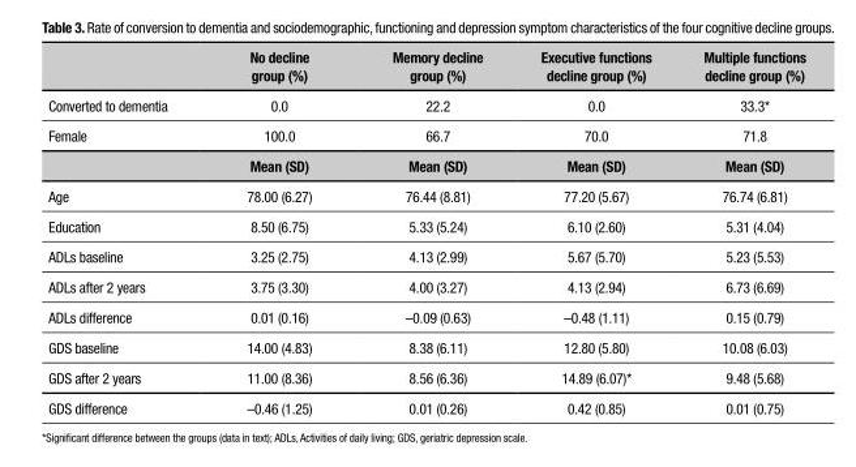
<table><thead><tr><td></td><td>No decline group (%)</td><td>Memory decline group (%)</td><td>Executive functions decline group (%)</td><td>Multiple functions decline group (%)</td></tr></thead><tbody><tr><td>Converted to dementia</td><td>0.0</td><td>22.2</td><td>0.0</td><td>33.3*</td></tr><tr><td rowspan="2">Female</td><td>100.0</td><td>66.7</td><td>70.0</td><td>71.8</td></tr><tr><td>Mean (SD)</td><td>Mean (SD)</td><td>Mean (SD)</td><td>Mean (SD)</td></tr><tr><td>Age</td><td>78.00 (6.27)</td><td>76.44 (8.81)</td><td>77.20 (5.67)</td><td>76.74 (6.81)</td></tr><tr><td>Education</td><td>8.50 (6.75)</td><td>5.33 (5.24)</td><td>6.10 (2.60)</td><td>5.31 (4.04)</td></tr><tr><td>ADLs baseline</td><td>3.25 (2.75)</td><td>4.13 (2.99)</td><td>5.67 (5.70)</td><td>5.23 (5.53)</td></tr><tr><td>ADLs after 2 years</td><td>3.75 (3.30)</td><td>4.00 (3.27)</td><td>4.13 (2.94)</td><td>6.73 (6.69)</td></tr><tr><td>ADLs difference</td><td>0.01 (0.16)</td><td>–0.09 (0.63)</td><td>–0.48 (1.11)</td><td>0.15 (0.79)</td></tr><tr><td>GDS baseline</td><td>14.00 (4.83)</td><td>8.38 (6.11)</td><td>12.80 (5.80)</td><td>10.08 (6.03)</td></tr><tr><td>GDS after 2 years</td><td>11.00 (8.36)</td><td>8.56 (6.36)</td><td>14.89 (6.07)*</td><td>9.48 (5.68)</td></tr><tr><td>GDS difference</td><td>–0.46 (1.25)</td><td>0.01 (0.26)</td><td>0.42 (0.85)</td><td>0.01 (0.75)</td></tr></tbody></table>